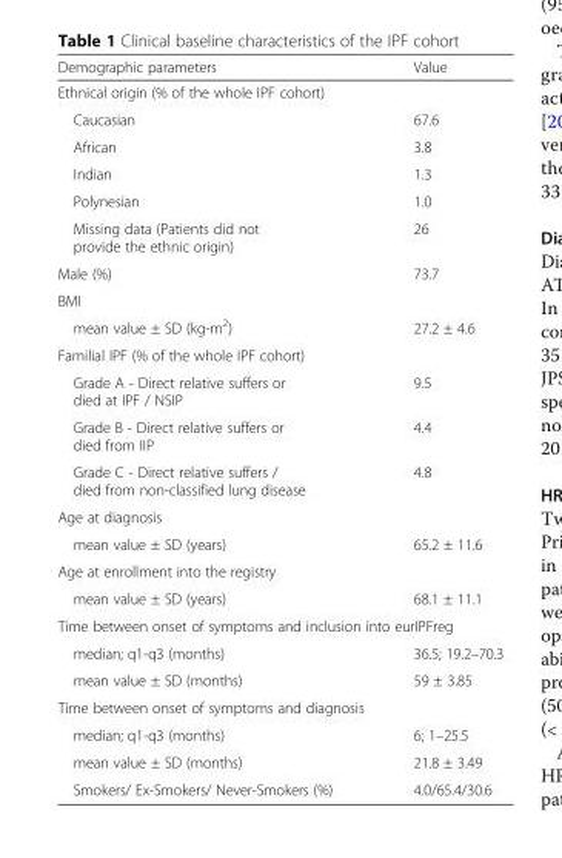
<table><thead><tr><td>Demographic parameters</td><td>Value</td></tr></thead><tbody><tr><td colspan="2">Ethnical origin (% of the whole IPF cohort)</td></tr><tr><td>Caucasian</td><td>67.6</td></tr><tr><td>African</td><td>3.8</td></tr><tr><td>Indian</td><td>1.3</td></tr><tr><td>Polynesian</td><td>1.0</td></tr><tr><td>Missing data (Patients did not provide the ethnic origin)</td><td>26</td></tr><tr><td>Male (%)</td><td>73.7</td></tr><tr><td colspan="2">BMI</td></tr><tr><td>mean value ± SD (kg-m<sup>2</sup>)</td><td>27.2 ± 4.6</td></tr><tr><td colspan="2">Familial IPF (% of the whole IPF cohort)</td></tr><tr><td>Grade A - Direct relative suffers or died at IPF / NSIP</td><td>9.5</td></tr><tr><td>Grade B - Direct relative suffers or died from IIP</td><td>4.4</td></tr><tr><td>Grade C - Direct relative suffers / died from non-classified lung disease</td><td>4.8</td></tr><tr><td colspan="2">Age at diagnosis</td></tr><tr><td>mean value ± SD (years)</td><td>65.2 ± 11.6</td></tr><tr><td colspan="2">Age at enrollment into the registry</td></tr><tr><td>mean value ± SD (years)</td><td>68.1 ± 11.1</td></tr><tr><td colspan="2">Time between onset of symptoms and inclusion into eurIPFreg</td></tr><tr><td>median; q1-q3 (months)</td><td>36.5; 19.2–70.3</td></tr><tr><td>mean value ± SD (months)</td><td>59 ± 3.85</td></tr><tr><td colspan="2">Time between onset of symptoms and diagnosis</td></tr><tr><td>median; q1-q3 (months)</td><td>6; 1–25.5</td></tr><tr><td>mean value ± SD (months)</td><td>21.8 ± 3.49</td></tr><tr><td>Smokers/ Ex-Smokers/ Never-Smokers (%)</td><td>4.0/65.4/30.6</td></tr></tbody></table>